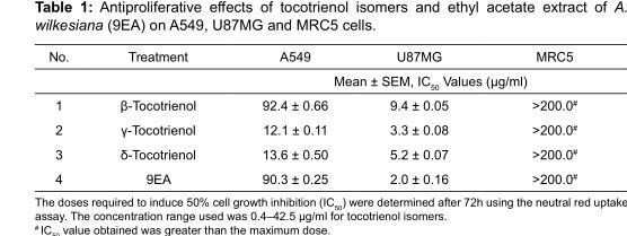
<table><thead><tr><td rowspan="2">No.</td><td rowspan="2">Treatment</td><td>A549</td><td>U87MG</td><td>MRC5</td></tr><tr><td colspan="3">Mean ± SEM, IC<sub>50</sub> Values (µg/ml)</td></tr></thead><tbody><tr><td>1</td><td>β-Tocotrienol</td><td>92.4 ± 0.66</td><td>9.4 ± 0.05</td><td>&gt;200.0#</td></tr><tr><td>2</td><td>γ-Tocotrienol</td><td>12.1 ± 0.11</td><td>3.3 ± 0.08</td><td>&gt;200.0#</td></tr><tr><td>3</td><td>δ-Tocotrienol</td><td>13.6 ± 0.50</td><td>5.2 ± 0.07</td><td>&gt;200.0#</td></tr><tr><td>4</td><td>9EA</td><td>90.3 ± 0.25</td><td>2.0 ± 0.16</td><td>&gt;200.0#</td></tr></tbody></table>